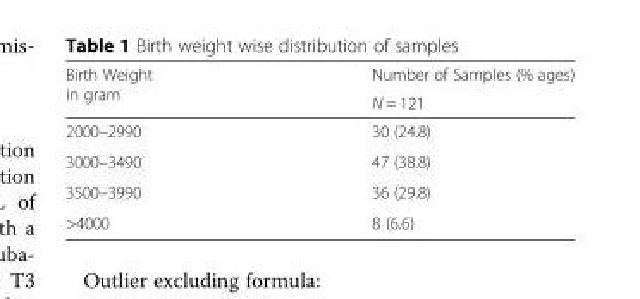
<table><thead><tr><td rowspan="2">Birth Weight in gram</td><td rowspan="2">Number of Samples (% ages) N = 121</td></tr><tr></tr></thead><tbody><tr><td>2000–2990</td><td>30 (24.8)</td></tr><tr><td>3000–3490</td><td>47 (38.8)</td></tr><tr><td>3500–3990</td><td>36 (29.8)</td></tr><tr><td>&gt;4000</td><td>8 (6.6)</td></tr></tbody></table>